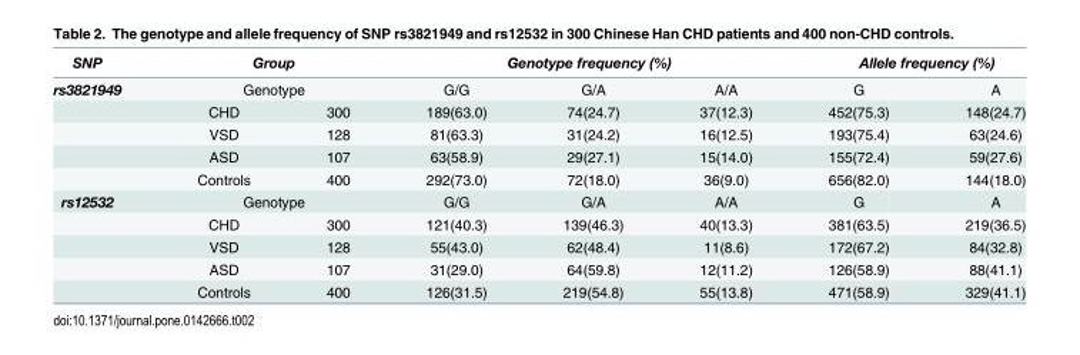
<table><thead><tr><td rowspan="3">SNP rs3821949</td><td rowspan="2" colspan="2">Group Genotype</td><td colspan="3">Genotype frequency (%)</td><td colspan="2">Allele frequency (%)</td></tr><tr><td rowspan="2">G/G 189(63.0)</td><td rowspan="2">G/A 74(24.7)</td><td rowspan="2">A/A 37(12.3)</td><td rowspan="2">G 452(75.3)</td><td rowspan="2">A 148(24.7)</td></tr><tr><td>CHD</td><td>300</td></tr></thead><tbody><tr><td></td><td>VSD</td><td>128</td><td>81(63.3)</td><td>31(24.2)</td><td>16(12.5)</td><td>193(75.4)</td><td>63(24.6)</td></tr><tr><td></td><td>ASD</td><td>107</td><td>63(58.9)</td><td>29(27.1)</td><td>15(14.0)</td><td>155(72.4)</td><td>59(27.6)</td></tr><tr><td></td><td>Controls</td><td>400</td><td>292(73.0)</td><td>72(18.0)</td><td>36(9.0)</td><td>656(82.0)</td><td>144(18.0)</td></tr><tr><td rowspan="5">rs12532</td><td colspan="2">Genotype</td><td>G/G</td><td>G/A</td><td>A/A</td><td>G</td><td>A</td></tr><tr><td>CHD</td><td>300</td><td>121(40.3)</td><td>139(46.3)</td><td>40(13.3)</td><td>381(63.5)</td><td>219(36.5)</td></tr><tr><td>VSD</td><td>128</td><td>55(43.0)</td><td>62(48.4)</td><td>11(8.6)</td><td>172(67.2)</td><td>84(32.8)</td></tr><tr><td>ASD</td><td>107</td><td>31(29.0)</td><td>64(59.8)</td><td>12(11.2)</td><td>126(58.9)</td><td>88(41.1)</td></tr><tr><td>Controls</td><td>400</td><td>126(31.5)</td><td>219(54.8)</td><td>55(13.8)</td><td>471(58.9)</td><td>329(41.1)</td></tr></tbody></table>